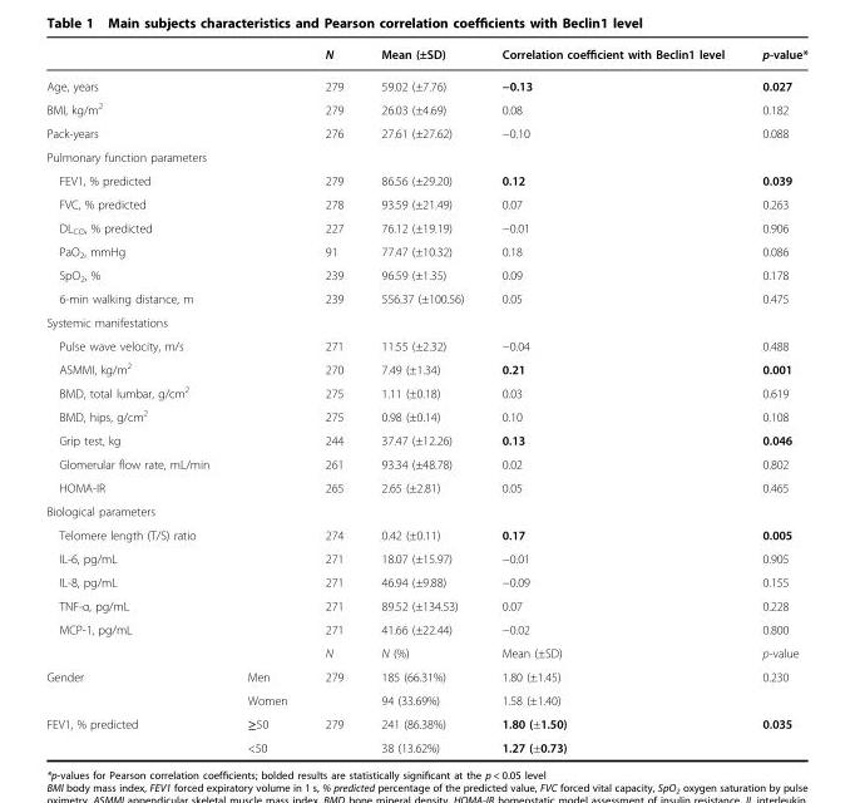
<table><thead><tr><td></td><td></td><td>N</td><td>Mean (±SD)</td><td>Correlation coefficient with Beclin1 level</td><td>p-value*</td></tr></thead><tbody><tr><td>Age, years</td><td></td><td>279</td><td>59.02 (±7.76)</td><td>−0.13</td><td>0.027</td></tr><tr><td>BMI, kg/m<sup>2</sup></td><td></td><td>279</td><td>26.03 (±4.69)</td><td>0.08</td><td>0.182</td></tr><tr><td>Pack-years</td><td></td><td>276</td><td>27.61 (±27.62)</td><td>−0.10</td><td>0.088</td></tr><tr><td colspan="6">Pulmonary function parameters</td></tr><tr><td>FEV1, % predicted</td><td></td><td>279</td><td>86.56 (±29.20)</td><td>0.12</td><td>0.039</td></tr><tr><td>FVC, % predicted</td><td></td><td>278</td><td>93.59 (±21.49)</td><td>0.07</td><td>0.263</td></tr><tr><td>DL<sub>CO</sub>, % predicted</td><td></td><td>227</td><td>76.12 (±19.19)</td><td>−0.01</td><td>0.906</td></tr><tr><td>PaO<sub>2</sub>, mmHg</td><td></td><td>91</td><td>77.47 (±10.32)</td><td>0.18</td><td>0.086</td></tr><tr><td>SpO<sub>2</sub>, %</td><td></td><td>239</td><td>96.59 (±1.35)</td><td>0.09</td><td>0.178</td></tr><tr><td>6-min walking distance, m</td><td></td><td>239</td><td>556.37 (±100.56)</td><td>0.05</td><td>0.475</td></tr><tr><td colspan="6">Systemic manifestations</td></tr><tr><td>Pulse wave velocity, m/s</td><td></td><td>271</td><td>11.55 (±2.32)</td><td>−0.04</td><td>0.488</td></tr><tr><td>ASMMI, kg/m<sup>2</sup></td><td></td><td>270</td><td>7.49 (±1.34)</td><td>0.21</td><td>0.001</td></tr><tr><td>BMD, total lumbar, g/cm<sup>2</sup></td><td></td><td>275</td><td>1.11 (±0.18)</td><td>0.03</td><td>0.619</td></tr><tr><td>BMD, hips, g/cm<sup>2</sup></td><td></td><td>275</td><td>0.98 (±0.14)</td><td>0.10</td><td>0.108</td></tr><tr><td>Grip test, kg</td><td></td><td>244</td><td>37.47 (±12.26)</td><td>0.13</td><td>0.046</td></tr><tr><td>Glomerular flow rate, mL/min</td><td></td><td>261</td><td>93.34 (±48.78)</td><td>0.02</td><td>0.802</td></tr><tr><td>HOMA-IR</td><td></td><td>265</td><td>2.65 (±2.81)</td><td>0.05</td><td>0.465</td></tr><tr><td colspan="6">Biological parameters</td></tr><tr><td>Telomere length (T/S) ratio</td><td></td><td>274</td><td>0.42 (±0.11)</td><td>0.17</td><td>0.005</td></tr><tr><td>IL-6, pg/mL</td><td></td><td>271</td><td>18.07 (±15.97)</td><td>−0.01</td><td>0.905</td></tr><tr><td>IL-8, pg/mL</td><td></td><td>271</td><td>46.94 (±9.88)</td><td>−0.09</td><td>0.155</td></tr><tr><td>TNF-α, pg/mL</td><td></td><td>271</td><td>89.52 (±134.53)</td><td>0.07</td><td>0.228</td></tr><tr><td rowspan="2">MCP-1, pg/mL</td><td></td><td>271</td><td>41.66 (±22.44)</td><td>−0.02</td><td>0.800</td></tr><tr><td></td><td>N</td><td>N (%)</td><td>Mean (±SD)</td><td>p-value</td></tr><tr><td rowspan="2">Gender</td><td>Men</td><td rowspan="2">279</td><td>185 (66.31%)</td><td>1.80 (±1.45)</td><td>0.230</td></tr><tr><td>Women</td><td>94 (33.69%)</td><td>1.58 (±1.40)</td><td></td></tr><tr><td rowspan="2">FEV1, % predicted</td><td>≥50</td><td rowspan="2">279</td><td>241 (86.38%)</td><td>1.80 (±1.50)</td><td>0.035</td></tr><tr><td>&lt;50</td><td>38 (13.62%)</td><td>1.27 (±0.73)</td><td></td></tr></tbody></table>